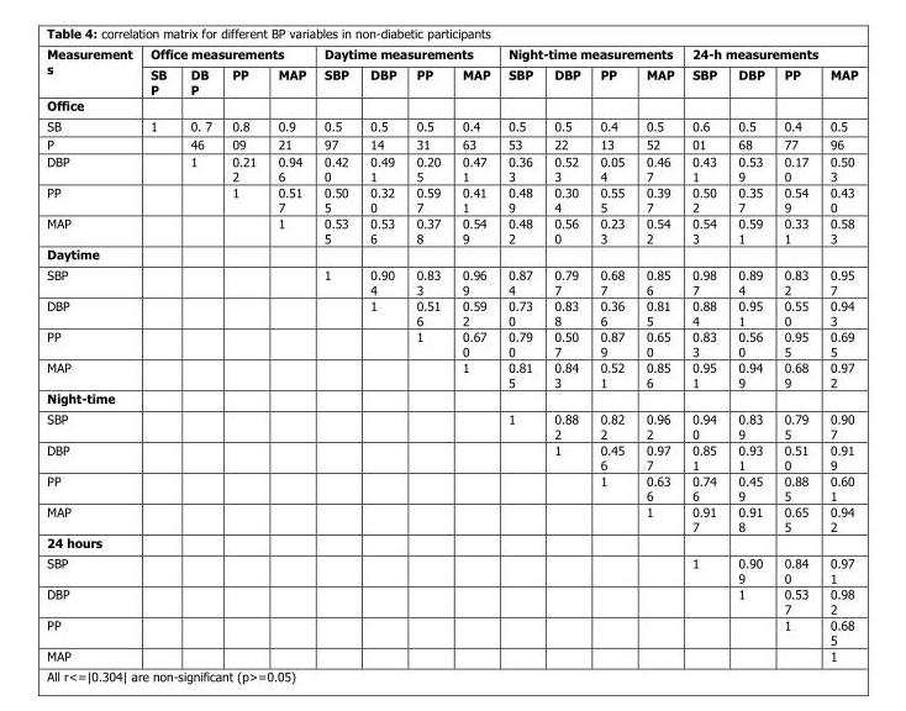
<table><thead><tr><td rowspan="2">Measurement s</td><td colspan="4">Office measurements</td><td colspan="4">Daytime measurements</td><td colspan="4">Night-time measurements</td><td colspan="4">24-h measurements</td></tr><tr><td>SB P</td><td>DB P</td><td>PP</td><td>MAP</td><td>SBP</td><td>DBP</td><td>PP</td><td>MAP</td><td>SBP</td><td>DBP</td><td>PP</td><td>MAP</td><td>SBP</td><td>DBP</td><td>PP</td><td>MAP</td></tr></thead><tbody><tr><td colspan="17">Office</td></tr><tr><td>SB</td><td>1</td><td>0. 7</td><td>0.8</td><td>0.9</td><td>0.5</td><td>0.5</td><td>0.5</td><td>0.4</td><td>0.5</td><td>0.5</td><td>0.4</td><td>0.5</td><td>0.6</td><td>0.5</td><td>0.4</td><td>0.5</td></tr><tr><td>P</td><td></td><td>46</td><td>09</td><td>21</td><td>97</td><td>14</td><td>31</td><td>63</td><td>53</td><td>22</td><td>13</td><td>52</td><td>01</td><td>68</td><td>77</td><td>96</td></tr><tr><td>DBP</td><td></td><td>1</td><td>0.21 2</td><td>0.94 6</td><td>0.42 0</td><td>0.49 1</td><td>0.20 5</td><td>0.47 1</td><td>0.36 3</td><td>0.52 3</td><td>0.05 4</td><td>0.46 7</td><td>0.43 1</td><td>0.53 9</td><td>0.17 0</td><td>0.50 3</td></tr><tr><td>PP</td><td></td><td></td><td>1</td><td>0.51 7</td><td>0.50 5</td><td>0.32 0</td><td>0.59 7</td><td>0.41 1</td><td>0.48 9</td><td>0.30 4</td><td>0.55 5</td><td>0.39 7</td><td>0.50 2</td><td>0.35 7</td><td>0.54 9</td><td>0.43 0</td></tr><tr><td>MAP</td><td></td><td></td><td></td><td>1</td><td>0.53 5</td><td>0.53 6</td><td>0.37 8</td><td>0.54 9</td><td>0.48 2</td><td>0.56 0</td><td>0.23 3</td><td>0.54 2</td><td>0.54 3</td><td>0.59 1</td><td>0.33 1</td><td>0.58 3</td></tr><tr><td colspan="17">Daytime</td></tr><tr><td>SBP</td><td></td><td></td><td></td><td></td><td>1</td><td>0.90 4</td><td>0.83 3</td><td>0.96 9</td><td>0.87 4</td><td>0.79 7</td><td>0.68 7</td><td>0.85 6</td><td>0.98 7</td><td>0.89 4</td><td>0.83 2</td><td>0.95 7</td></tr><tr><td>DBP</td><td></td><td></td><td></td><td></td><td></td><td>1</td><td>0.51 6</td><td>0.59 2</td><td>0.73 0</td><td>0.83 8</td><td>0.36 6</td><td>0.81 5</td><td>0.88 4</td><td>0.95 1</td><td>0.55 0</td><td>0.94 3</td></tr><tr><td>PP</td><td></td><td></td><td></td><td></td><td></td><td></td><td>1</td><td>0.67 0</td><td>0.79 0</td><td>0.50 7</td><td>0.87 9</td><td>0.65 0</td><td>0.83 3</td><td>0.56 0</td><td>0.95 5</td><td>0.69 5</td></tr><tr><td>MAP</td><td></td><td></td><td></td><td></td><td></td><td></td><td></td><td>1</td><td>0.81 5</td><td>0.84 3</td><td>0.52 1</td><td>0.85 6</td><td>0.95 1</td><td>0.94 9</td><td>0.68 9</td><td>0.97 2</td></tr><tr><td colspan="17">Night-time</td></tr><tr><td>SBP</td><td></td><td></td><td></td><td></td><td></td><td></td><td></td><td></td><td>1</td><td>0.88 2</td><td>0.82 2</td><td>0.96 2</td><td>0.94 0</td><td>0.83 9</td><td>0.79 5</td><td>0.90 7</td></tr><tr><td>DBP</td><td></td><td></td><td></td><td></td><td></td><td></td><td></td><td></td><td></td><td>1</td><td>0.45 6</td><td>0.97 7</td><td>0.85 1</td><td>0.93 1</td><td>0.51 0</td><td>0.91 9</td></tr><tr><td>PP</td><td></td><td></td><td></td><td></td><td></td><td></td><td></td><td></td><td></td><td></td><td>1</td><td>0.63 6</td><td>0.74 6</td><td>0.45 9</td><td>0.88 5</td><td>0.60 1</td></tr><tr><td>MAP</td><td></td><td></td><td></td><td></td><td></td><td></td><td></td><td></td><td></td><td></td><td></td><td>1</td><td>0.91 7</td><td>0.91 8</td><td>0.65 5</td><td>0.94 2</td></tr><tr><td colspan="17">24 hours</td></tr><tr><td>SBP</td><td></td><td></td><td></td><td></td><td></td><td></td><td></td><td></td><td></td><td></td><td></td><td></td><td>1</td><td>0.90 9</td><td>0.84 0</td><td>0.97 1</td></tr><tr><td>DBP</td><td></td><td></td><td></td><td></td><td></td><td></td><td></td><td></td><td></td><td></td><td></td><td></td><td></td><td>1</td><td>0.53 7</td><td>0.98 2</td></tr><tr><td>PP</td><td></td><td></td><td></td><td></td><td></td><td></td><td></td><td></td><td></td><td></td><td></td><td></td><td></td><td></td><td>1</td><td>0.68 5</td></tr><tr><td>MAP</td><td></td><td></td><td></td><td></td><td></td><td></td><td></td><td></td><td></td><td></td><td></td><td></td><td></td><td></td><td></td><td>1</td></tr></tbody></table>